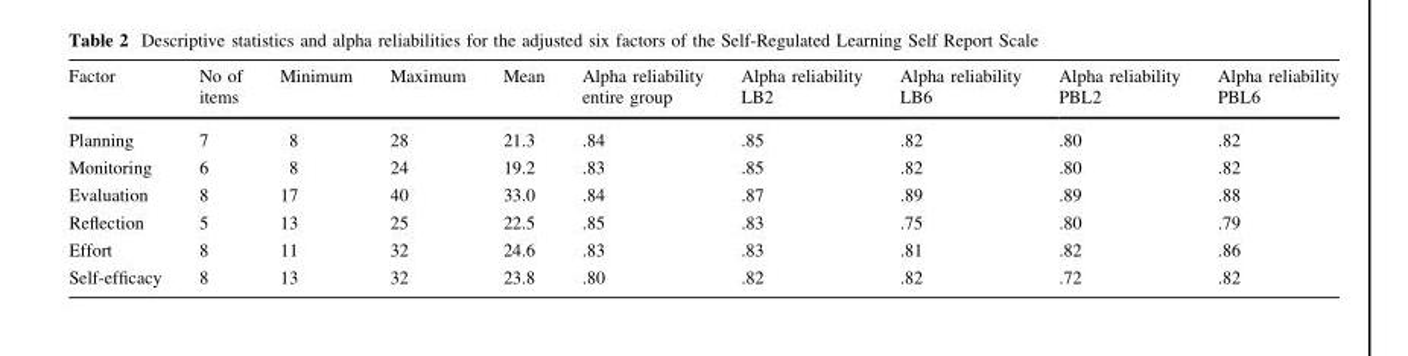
<table><thead><tr><td>Factor</td><td>No of items</td><td>Minimum</td><td>Maximum</td><td>Mean</td><td>Alpha reliability entire group</td><td>Alpha reliability LB2</td><td>Alpha reliability LB6</td><td>Alpha reliability PBL2</td><td>Alpha reliability PBL6</td></tr></thead><tbody><tr><td>Planning</td><td>7</td><td>8</td><td>28</td><td>21.3</td><td>.84</td><td>.85</td><td>.82</td><td>.80</td><td>.82</td></tr><tr><td>Monitoring</td><td>6</td><td>8</td><td>24</td><td>19.2</td><td>.83</td><td>.85</td><td>.82</td><td>.80</td><td>.82</td></tr><tr><td>Evaluation</td><td>8</td><td>17</td><td>40</td><td>33.0</td><td>.84</td><td>.87</td><td>.89</td><td>.89</td><td>.88</td></tr><tr><td>Reflection</td><td>5</td><td>13</td><td>25</td><td>22.5</td><td>.85</td><td>.83</td><td>.75</td><td>.80</td><td>.79</td></tr><tr><td>Effort</td><td>8</td><td>11</td><td>32</td><td>24.6</td><td>.83</td><td>.83</td><td>.81</td><td>.82</td><td>.86</td></tr><tr><td>Self-efficacy</td><td>8</td><td>13</td><td>32</td><td>23.8</td><td>.80</td><td>.82</td><td>.82</td><td>.72</td><td>.82</td></tr></tbody></table>